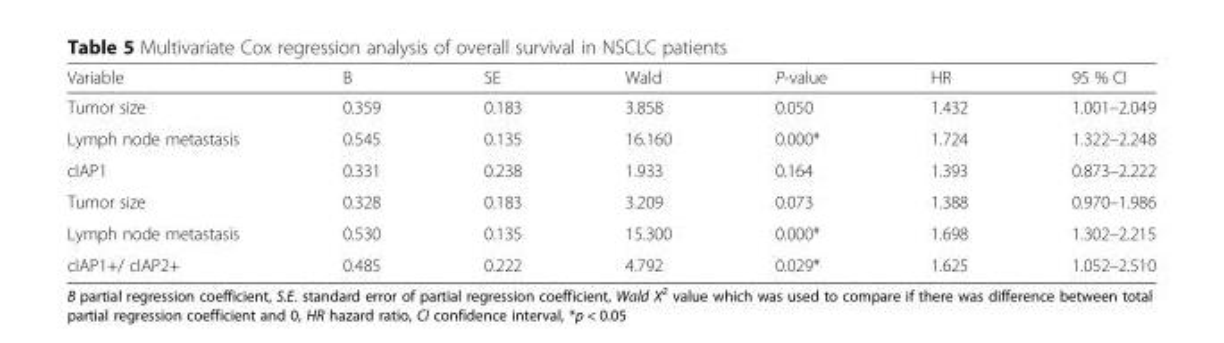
<table><thead><tr><td>Variable</td><td>B</td><td>SE</td><td>Wald</td><td>P-value</td><td>HR</td><td>95 % CI</td></tr></thead><tbody><tr><td>Tumor size</td><td>0.359</td><td>0.183</td><td>3.858</td><td>0.050</td><td>1.432</td><td>1.001–2.049</td></tr><tr><td>Lymph node metastasis</td><td>0.545</td><td>0.135</td><td>16.160</td><td>0.000*</td><td>1.724</td><td>1.322–2.248</td></tr><tr><td>cIAP1</td><td>0.331</td><td>0.238</td><td>1.933</td><td>0.164</td><td>1.393</td><td>0.873–2.222</td></tr><tr><td>Tumor size</td><td>0.328</td><td>0.183</td><td>3.209</td><td>0.073</td><td>1.388</td><td>0.970–1.986</td></tr><tr><td>Lymph node metastasis</td><td>0.530</td><td>0.135</td><td>15.300</td><td>0.000*</td><td>1.698</td><td>1.302–2.215</td></tr><tr><td>cIAP1+/ cIAP2+</td><td>0.485</td><td>0.222</td><td>4.792</td><td>0.029*</td><td>1.625</td><td>1.052–2.510</td></tr></tbody></table>